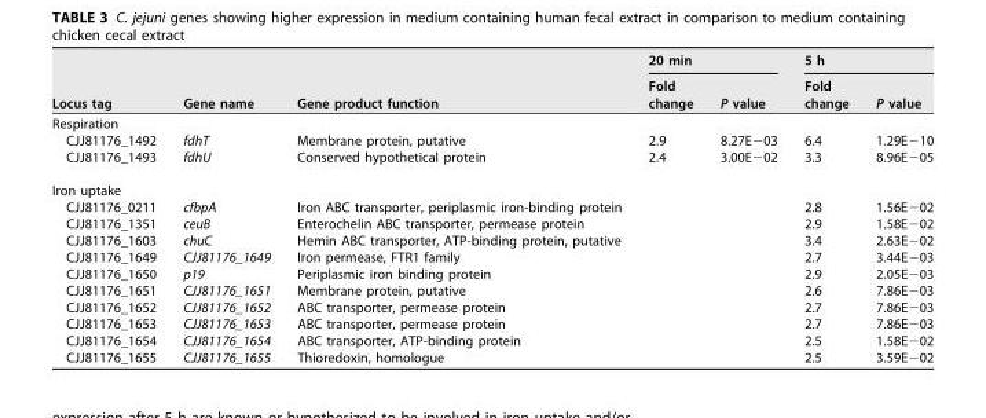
<table><thead><tr><td rowspan="2">Locus tag</td><td rowspan="2">Gene name</td><td rowspan="2">Gene product function</td><td colspan="2">20 min</td><td colspan="2">5 h</td></tr><tr><td>Fold change</td><td>P value</td><td>Fold change</td><td>P value</td></tr></thead><tbody><tr><td colspan="7">Respiration</td></tr><tr><td>CJJ81176_1492</td><td>fdhT</td><td>Membrane protein, putative</td><td>2.9</td><td>8.27E−03</td><td>6.4</td><td>1.29E−10</td></tr><tr><td>CJJ81176_1493</td><td>fdhU</td><td>Conserved hypothetical protein</td><td>2.4</td><td>3.00E−02</td><td>3.3</td><td>8.96E−05</td></tr><tr><td colspan="7">Iron uptake</td></tr><tr><td>CJJ81176_0211</td><td>cfbpA</td><td>Iron ABC transporter, periplasmic iron-binding protein</td><td></td><td></td><td>2.8</td><td>1.56E−02</td></tr><tr><td>CJJ81176_1351</td><td>ceuB</td><td>Enterochelin ABC transporter, permease protein</td><td></td><td></td><td>2.9</td><td>1.58E−02</td></tr><tr><td>CJJ81176_1603</td><td>chuC</td><td>Hemin ABC transporter, ATP-binding protein, putative</td><td></td><td></td><td>3.4</td><td>2.63E−02</td></tr><tr><td>CJJ81176_1649</td><td>CJJ81176_1649</td><td>Iron permease, FTR1 family</td><td></td><td></td><td>2.7</td><td>3.44E−03</td></tr><tr><td>CJJ81176_1650</td><td>p19</td><td>Periplasmic iron binding protein</td><td></td><td></td><td>2.9</td><td>2.05E−03</td></tr><tr><td>CJJ81176_1651</td><td>CJJ81176_1651</td><td>Membrane protein, putative</td><td></td><td></td><td>2.6</td><td>7.86E−03</td></tr><tr><td>CJJ81176_1652</td><td>CJJ81176_1652</td><td>ABC transporter, permease protein</td><td></td><td></td><td>2.7</td><td>7.86E−03</td></tr><tr><td>CJJ81176_1653</td><td>CJJ81176_1653</td><td>ABC transporter, permease protein</td><td></td><td></td><td>2.7</td><td>7.86E−03</td></tr><tr><td>CJJ81176_1654</td><td>CJJ81176_1654</td><td>ABC transporter, ATP-binding protein</td><td></td><td></td><td>2.5</td><td>1.58E−02</td></tr><tr><td>CJJ81176_1655</td><td>CJJ81176_1655</td><td>Thioredoxin, homologue</td><td></td><td></td><td>2.5</td><td>3.59E−02</td></tr></tbody></table>